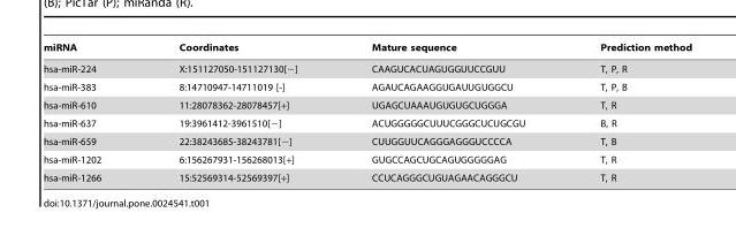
<table><thead><tr><td>miRNA</td><td>Coordinates</td><td>Mature sequence</td><td>Prediction method</td></tr></thead><tbody><tr><td>hsa-miR-224</td><td>X:151127050-151127130[−]</td><td>CAAGUCACUAGUGGUUCCGUU</td><td>T, P, R</td></tr><tr><td>hsa-miR-383</td><td>8:14710947-14711019 [-]</td><td>AGAUCAGAAGGUGAUUGUGGCU</td><td>T, P, B</td></tr><tr><td>hsa-miR-610</td><td>11:28078362-28078457[+]</td><td>UGAGCUAAAUGUGUGCUGGGA</td><td>T, R</td></tr><tr><td>hsa-miR-637</td><td>19:3961412-3961510[−]</td><td>ACUGGGGGCUUUCGGGCUCUGCGU</td><td>B, R</td></tr><tr><td>hsa-miR-659</td><td>22:38243685-38243781[−]</td><td>CUUGGUUCAGGGAGGGUCCCCA</td><td>T, B</td></tr><tr><td>hsa-miR-1202</td><td>6:156267931-156268013[+]</td><td>GUGCCAGCUGCAGUGGGGGAG</td><td>T, R</td></tr><tr><td>hsa-miR-1266</td><td>15:52569314-52569397[+]</td><td>CCUCAGGGCUGUAGAACAGGGCU</td><td>T, R</td></tr></tbody></table>